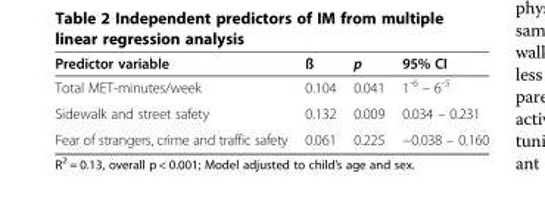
<table><thead><tr><td>Predictor variable</td><td>ß</td><td>p</td><td>95% CI</td></tr></thead><tbody><tr><td>Total MET-minutes/week</td><td>0.104</td><td>0.041</td><td>1<sup>-6</sup> – 6<sup>-5</sup></td></tr><tr><td>Sidewalk and street safety</td><td>0.132</td><td>0.009</td><td>0.034 – 0.231</td></tr><tr><td>Fear of strangers, crime and traffic safety</td><td>0.061</td><td>0.225</td><td>−0.038 – 0.160</td></tr></tbody></table>